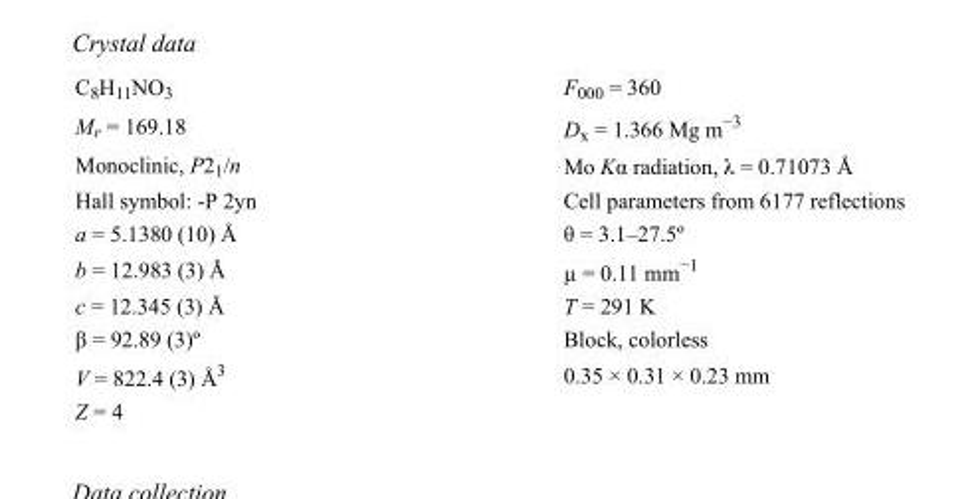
<table><tbody><tr><td>C<sub>8</sub>H<sub>11</sub>NO<sub>3</sub></td><td>F000 = 360</td></tr><tr><td>M<sub>r</sub> = 169.18</td><td>D<sub>x</sub> = 1.366 Mg m<sup>−3</sup></td></tr><tr><td>Monoclinic, P2<sub>1</sub>/n</td><td>Mo Kα radiation, λ = 0.71073 Å</td></tr><tr><td>Hall symbol: -P 2yn</td><td>Cell parameters from 6177 reflections</td></tr><tr><td>a = 5.1380 (10) Å</td><td>θ = 3.1–27.5º</td></tr><tr><td>b = 12.983 (3) Å</td><td>µ = 0.11 mm<sup>−1</sup></td></tr><tr><td>c = 12.345 (3) Å</td><td>T = 291 K</td></tr><tr><td>β = 92.89 (3)º</td><td>Block, colorless</td></tr><tr><td>V = 822.4 (3) Å<sup>3</sup></td><td>0.35 × 0.31 × 0.23 mm</td></tr><tr><td>Z = 4</td><td></td></tr></tbody></table>